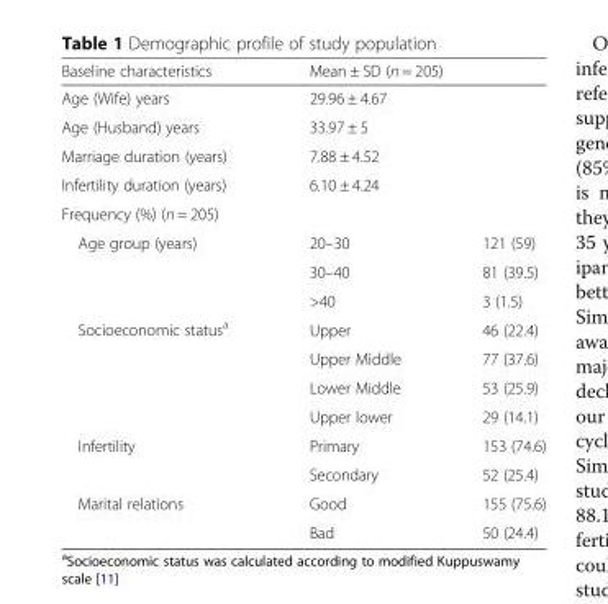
<table><thead><tr><td>Baseline characteristics</td><td colspan="2">Mean ± SD (n = 205)</td></tr></thead><tbody><tr><td>Age (Wife) years</td><td colspan="2">29.96 ± 4.67</td></tr><tr><td>Age (Husband) years</td><td colspan="2">33.97 ± 5</td></tr><tr><td>Marriage duration (years)</td><td colspan="2">7.88 ± 4.52</td></tr><tr><td>Infertility duration (years)</td><td colspan="2">6.10 ± 4.24</td></tr><tr><td colspan="3">Frequency (%) (n = 205)</td></tr><tr><td rowspan="3">Age group (years)</td><td>20–30</td><td>121 (59)</td></tr><tr><td>30–40</td><td>81 (39.5)</td></tr><tr><td>&gt;40</td><td>3 (1.5)</td></tr><tr><td rowspan="4">Socioeconomic status<sup>a</sup></td><td>Upper</td><td>46 (22.4)</td></tr><tr><td>Upper Middle</td><td>77 (37.6)</td></tr><tr><td>Lower Middle</td><td>53 (25.9)</td></tr><tr><td>Upper lower</td><td>29 (14.1)</td></tr><tr><td rowspan="2">Infertility</td><td>Primary</td><td>153 (74.6)</td></tr><tr><td>Secondary</td><td>52 (25.4)</td></tr><tr><td rowspan="2">Marital relations</td><td>Good</td><td>155 (75.6)</td></tr><tr><td>Bad</td><td>50 (24.4)</td></tr></tbody></table>